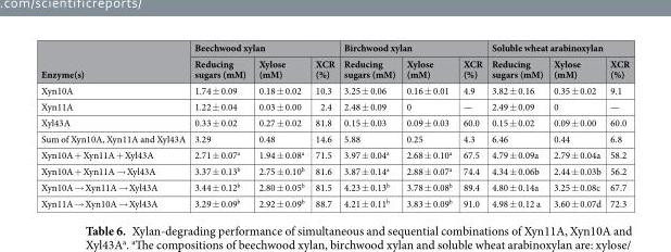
<table><thead><tr><td rowspan="2">Enzyme(s)</td><td colspan="3">Beechwood xylan</td><td colspan="3">Birchwood xylan</td><td colspan="3">Soluble wheat arabinoxylan</td></tr><tr><td>Reducing sugars (mM)</td><td>Xylose (mM)</td><td>XCR (%)</td><td>Reducing sugars (mM)</td><td>Xylose (mM)</td><td>XCR (%)</td><td>Reducing sugars (mM)</td><td>Xylose (mM)</td><td>XCR (%)</td></tr></thead><tbody><tr><td>Xyn10A</td><td>1.74 ± 0.09</td><td>0.18 ± 0.02</td><td>10.3</td><td>3.25 ± 0.06</td><td>0.16 ± 0.01</td><td>4.9</td><td>3.82 ± 0.16</td><td>0.35 ± 0.02</td><td>9.1</td></tr><tr><td>Xyn11A</td><td>1.22 ± 0.04</td><td>0.03 ± 0.00</td><td>2.4</td><td>2.48 ± 0.09</td><td>0</td><td>—</td><td>2.49 ± 0.09</td><td>0</td><td>—</td></tr><tr><td>Xyl43A</td><td>0.33 ± 0.02</td><td>0.27 ± 0.02</td><td>81.8</td><td>0.15 ± 0.03</td><td>0.09 ± 0.03</td><td>60.0</td><td>0.15 ± 0.02</td><td>0.09 ± 0.00</td><td>60.0</td></tr><tr><td>Sum of Xyn10A, Xyn11A and Xyl43A</td><td>3.29</td><td>0.48</td><td>14.6</td><td>5.88</td><td>0.25</td><td>4.3</td><td>6.46</td><td>0.44</td><td>6.8</td></tr><tr><td>Xyn10A + Xyn11A + Xyl43A</td><td>2.71 ± 0.07<sup>a</sup></td><td>1.94 ± 0.08<sup>a</sup></td><td>71.5</td><td>3.97 ± 0.04<sup>a</sup></td><td>2.68 ± 0.10<sup>a</sup></td><td>67.5</td><td>4.79 ± 0.09a</td><td>2.79 ± 0.04a</td><td>58.2</td></tr><tr><td>Xyn10A + Xyn11A → Xyl43A</td><td>3.37 ± 0.13<sup>b</sup></td><td>2.75 ± 0.10<sup>b</sup></td><td>81.6</td><td>3.87 ± 0.14<sup>a</sup></td><td>2.88 ± 0.07<sup>a</sup></td><td>74.4</td><td>4.34 ± 0.06b</td><td>2.44 ± 0.03b</td><td>56.2</td></tr><tr><td>Xyn10A → Xyn11A → Xyl43A</td><td>3.44 ± 0.12<sup>b</sup></td><td>2.80 ± 0.05<sup>b</sup></td><td>81.5</td><td>4.23 ± 0.13<sup>b</sup></td><td>3.78 ± 0.08<sup>b</sup></td><td>89.4</td><td>4.80 ± 0.14a</td><td>3.25 ± 0.08c</td><td>67.7</td></tr><tr><td>Xyn11A → Xyn10A → Xyl43A</td><td>3.29 ± 0.09<sup>b</sup></td><td>2.92 ± 0.09<sup>b</sup></td><td>88.7</td><td>4.21 ± 0.11<sup>b</sup></td><td>3.83 ± 0.09<sup>b</sup></td><td>91.0</td><td>4.98 ± 0.12 a</td><td>3.60 ± 0.07d</td><td>72.3</td></tr></tbody></table>